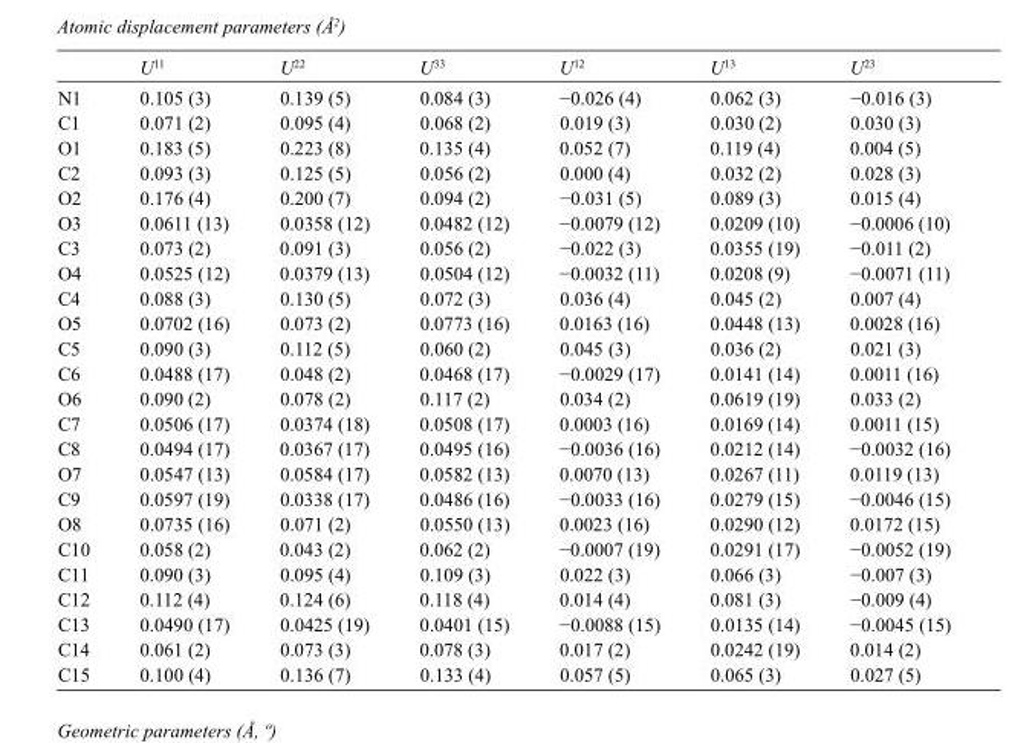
<table><thead><tr><td></td><td>U<sup>11</sup></td><td>U<sup>22</sup></td><td>U<sup>33</sup></td><td>U<sup>12</sup></td><td>U<sup>13</sup></td><td>U<sup>23</sup></td></tr></thead><tbody><tr><td>N1</td><td>0.105 (3)</td><td>0.139 (5)</td><td>0.084 (3)</td><td>−0.026 (4)</td><td>0.062 (3)</td><td>−0.016 (3)</td></tr><tr><td>C1</td><td>0.071 (2)</td><td>0.095 (4)</td><td>0.068 (2)</td><td>0.019 (3)</td><td>0.030 (2)</td><td>0.030 (3)</td></tr><tr><td>O1</td><td>0.183 (5)</td><td>0.223 (8)</td><td>0.135 (4)</td><td>0.052 (7)</td><td>0.119 (4)</td><td>0.004 (5)</td></tr><tr><td>C2</td><td>0.093 (3)</td><td>0.125 (5)</td><td>0.056 (2)</td><td>0.000 (4)</td><td>0.032 (2)</td><td>0.028 (3)</td></tr><tr><td>O2</td><td>0.176 (4)</td><td>0.200 (7)</td><td>0.094 (2)</td><td>−0.031 (5)</td><td>0.089 (3)</td><td>0.015 (4)</td></tr><tr><td>O3</td><td>0.0611 (13)</td><td>0.0358 (12)</td><td>0.0482 (12)</td><td>−0.0079 (12)</td><td>0.0209 (10)</td><td>−0.0006 (10)</td></tr><tr><td>C3</td><td>0.073 (2)</td><td>0.091 (3)</td><td>0.056 (2)</td><td>−0.022 (3)</td><td>0.0355 (19)</td><td>−0.011 (2)</td></tr><tr><td>O4</td><td>0.0525 (12)</td><td>0.0379 (13)</td><td>0.0504 (12)</td><td>−0.0032 (11)</td><td>0.0208 (9)</td><td>−0.0071 (11)</td></tr><tr><td>C4</td><td>0.088 (3)</td><td>0.130 (5)</td><td>0.072 (3)</td><td>0.036 (4)</td><td>0.045 (2)</td><td>0.007 (4)</td></tr><tr><td>O5</td><td>0.0702 (16)</td><td>0.073 (2)</td><td>0.0773 (16)</td><td>0.0163 (16)</td><td>0.0448 (13)</td><td>0.0028 (16)</td></tr><tr><td>C5</td><td>0.090 (3)</td><td>0.112 (5)</td><td>0.060 (2)</td><td>0.045 (3)</td><td>0.036 (2)</td><td>0.021 (3)</td></tr><tr><td>C6</td><td>0.0488 (17)</td><td>0.048 (2)</td><td>0.0468 (17)</td><td>−0.0029 (17)</td><td>0.0141 (14)</td><td>0.0011 (16)</td></tr><tr><td>O6</td><td>0.090 (2)</td><td>0.078 (2)</td><td>0.117 (2)</td><td>0.034 (2)</td><td>0.0619 (19)</td><td>0.033 (2)</td></tr><tr><td>C7</td><td>0.0506 (17)</td><td>0.0374 (18)</td><td>0.0508 (17)</td><td>0.0003 (16)</td><td>0.0169 (14)</td><td>0.0011 (15)</td></tr><tr><td>C8</td><td>0.0494 (17)</td><td>0.0367 (17)</td><td>0.0495 (16)</td><td>−0.0036 (16)</td><td>0.0212 (14)</td><td>−0.0032 (16)</td></tr><tr><td>O7</td><td>0.0547 (13)</td><td>0.0584 (17)</td><td>0.0582 (13)</td><td>0.0070 (13)</td><td>0.0267 (11)</td><td>0.0119 (13)</td></tr><tr><td>C9</td><td>0.0597 (19)</td><td>0.0338 (17)</td><td>0.0486 (16)</td><td>−0.0033 (16)</td><td>0.0279 (15)</td><td>−0.0046 (15)</td></tr><tr><td>O8</td><td>0.0735 (16)</td><td>0.071 (2)</td><td>0.0550 (13)</td><td>0.0023 (16)</td><td>0.0290 (12)</td><td>0.0172 (15)</td></tr><tr><td>C10</td><td>0.058 (2)</td><td>0.043 (2)</td><td>0.062 (2)</td><td>−0.0007 (19)</td><td>0.0291 (17)</td><td>−0.0052 (19)</td></tr><tr><td>C11</td><td>0.090 (3)</td><td>0.095 (4)</td><td>0.109 (3)</td><td>0.022 (3)</td><td>0.066 (3)</td><td>−0.007 (3)</td></tr><tr><td>C12</td><td>0.112 (4)</td><td>0.124 (6)</td><td>0.118 (4)</td><td>0.014 (4)</td><td>0.081 (3)</td><td>−0.009 (4)</td></tr><tr><td>C13</td><td>0.0490 (17)</td><td>0.0425 (19)</td><td>0.0401 (15)</td><td>−0.0088 (15)</td><td>0.0135 (14)</td><td>−0.0045 (15)</td></tr><tr><td>C14</td><td>0.061 (2)</td><td>0.073 (3)</td><td>0.078 (3)</td><td>0.017 (2)</td><td>0.0242 (19)</td><td>0.014 (2)</td></tr><tr><td>C15</td><td>0.100 (4)</td><td>0.136 (7)</td><td>0.133 (4)</td><td>0.057 (5)</td><td>0.065 (3)</td><td>0.027 (5)</td></tr></tbody></table>